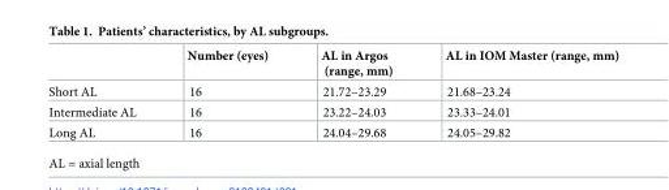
<table><thead><tr><td></td><td>Number (eyes)</td><td>AL in Argos (range, mm)</td><td>AL in IOM Master (range, mm)</td></tr></thead><tbody><tr><td>Short AL</td><td>16</td><td>21.72–23.29</td><td>21.68–23.24</td></tr><tr><td>Intermediate AL</td><td>16</td><td>23.22–24.03</td><td>23.33–24.01</td></tr><tr><td>Long AL</td><td>16</td><td>24.04–29.68</td><td>24.05–29.82</td></tr></tbody></table>